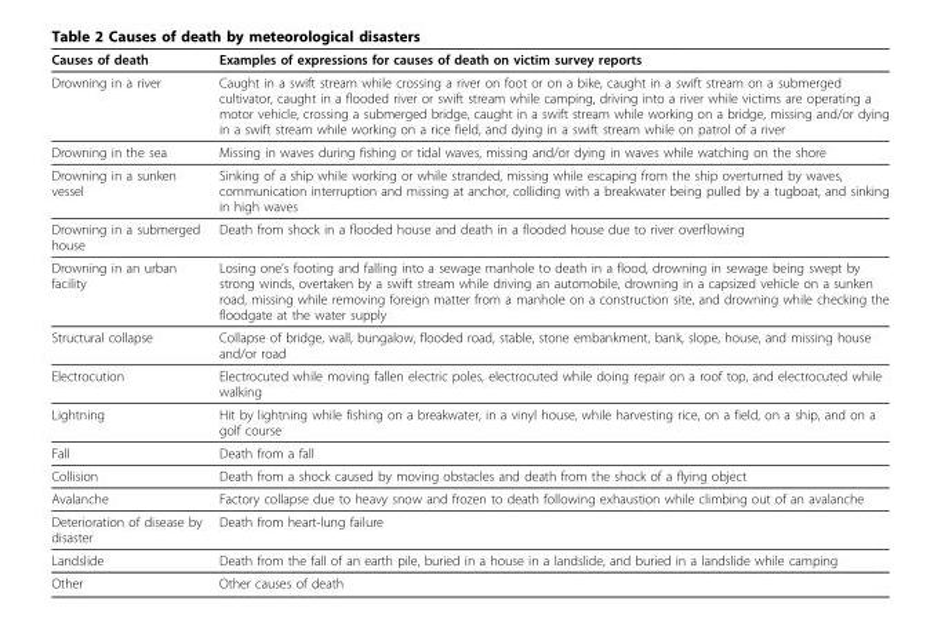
<table><thead><tr><td>Causes of death</td><td>Examples of expressions for causes of death on victim survey reports</td></tr></thead><tbody><tr><td>Drowning in a river</td><td>Caught in a swift stream while crossing a river on foot or on a bike, caught in a swift stream on a submerged cultivator, caught in a flooded river or swift stream while camping, driving into a river while victims are operating a motor vehicle, crossing a submerged bridge, caught in a swift stream while working on a bridge, missing and/or dying in a swift stream while working on a rice field, and dying in a swift stream while on patrol of a river</td></tr><tr><td>Drowning in the sea</td><td>Missing in waves during fishing or tidal waves, missing and/or dying in waves while watching on the shore</td></tr><tr><td>Drowning in a sunken vessel</td><td>Sinking of a ship while working or while stranded, missing while escaping from the ship overturned by waves, communication interruption and missing at anchor, colliding with a breakwater being pulled by a tugboat, and sinking in high waves</td></tr><tr><td>Drowning in a submerged house</td><td>Death from shock in a flooded house and death in a flooded house due to river overflowing</td></tr><tr><td>Drowning in an urban facility</td><td>Losing one’s footing and falling into a sewage manhole to death in a flood, drowning in sewage being swept by strong winds, overtaken by a swift stream while driving an automobile, drowning in a capsized vehicle on a sunken road, missing while removing foreign matter from a manhole on a construction site, and drowning while checking the floodgate at the water supply</td></tr><tr><td>Structural collapse</td><td>Collapse of bridge, wall, bungalow, flooded road, stable, stone embankment, bank, slope, house, and missing house and/or road</td></tr><tr><td>Electrocution</td><td>Electrocuted while moving fallen electric poles, electrocuted while doing repair on a roof top, and electrocuted while walking</td></tr><tr><td>Lightning</td><td>Hit by lightning while fishing on a breakwater, in a vinyl house, while harvesting rice, on a field, on a ship, and on a golf course</td></tr><tr><td>Fall</td><td>Death from a fall</td></tr><tr><td>Collision</td><td>Death from a shock caused by moving obstacles and death from the shock of a flying object</td></tr><tr><td>Avalanche</td><td>Factory collapse due to heavy snow and frozen to death following exhaustion while climbing out of an avalanche</td></tr><tr><td>Deterioration of disease by disaster</td><td>Death from heart-lung failure</td></tr><tr><td>Landslide</td><td>Death from the fall of an earth pile, buried in a house in a landslide, and buried in a landslide while camping</td></tr><tr><td>Other</td><td>Other causes of death</td></tr></tbody></table>